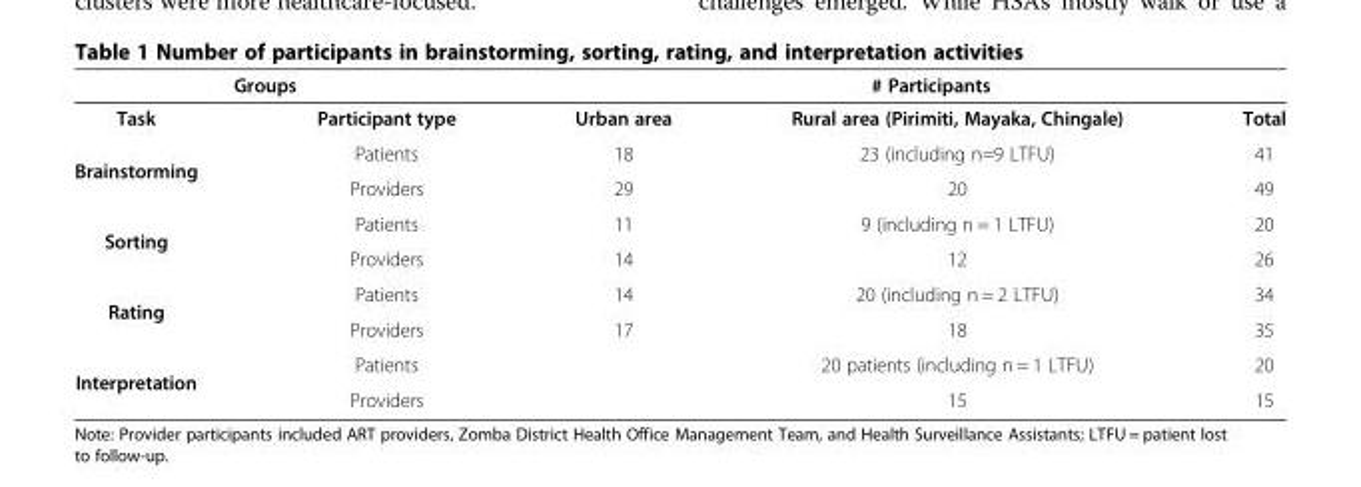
<table><thead><tr><td colspan="2">Groups</td><td colspan="3"># Participants</td></tr><tr><td>Task</td><td>Participant type</td><td>Urban area</td><td>Rural area (Pirimiti, Mayaka, Chingale)</td><td>Total</td></tr></thead><tbody><tr><td rowspan="2">Brainstorming</td><td>Patients</td><td>18</td><td>23 (including n=9 LTFU)</td><td>41</td></tr><tr><td>Providers</td><td>29</td><td>20</td><td>49</td></tr><tr><td rowspan="2">Sorting</td><td>Patients</td><td>11</td><td>9 (including n = 1 LTFU)</td><td>20</td></tr><tr><td>Providers</td><td>14</td><td>12</td><td>26</td></tr><tr><td rowspan="2">Rating</td><td>Patients</td><td>14</td><td>20 (including n = 2 LTFU)</td><td>34</td></tr><tr><td>Providers</td><td>17</td><td>18</td><td>35</td></tr><tr><td rowspan="2">Interpretation</td><td>Patients</td><td></td><td>20 patients (including n = 1 LTFU)</td><td>20</td></tr><tr><td>Providers</td><td></td><td>15</td><td>15</td></tr></tbody></table>